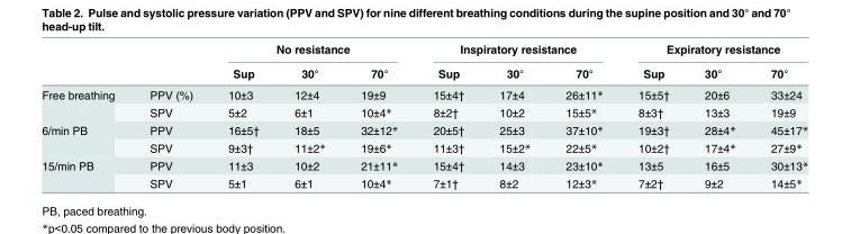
<table><thead><tr><td rowspan="2"></td><td rowspan="2"></td><td colspan="3">No resistance</td><td colspan="3">Inspiratory resistance</td><td colspan="3">Expiratory resistance</td></tr><tr><td>Sup</td><td>30°</td><td>70°</td><td>Sup</td><td>30°</td><td>70°</td><td>Sup</td><td>30°</td><td>70°</td></tr></thead><tbody><tr><td rowspan="2">Free breathing</td><td>PPV (%)</td><td>10±3</td><td>12±4</td><td>19±9</td><td>15±4†</td><td>17±4</td><td>26±11*</td><td>15±5†</td><td>20±6</td><td>33±24</td></tr><tr><td>SPV</td><td>5±2</td><td>6±1</td><td>10±4*</td><td>8±2†</td><td>10±2</td><td>15±5*</td><td>8±3†</td><td>13±3</td><td>19±9</td></tr><tr><td rowspan="2">6/min PB</td><td>PPV</td><td>16±5†</td><td>18±5</td><td>32±12*</td><td>20±5†</td><td>25±3</td><td>37±10*</td><td>19±3†</td><td>28±4*</td><td>45±17*</td></tr><tr><td>SPV</td><td>9±3†</td><td>11±2*</td><td>19±6*</td><td>11±3†</td><td>15±2*</td><td>22±5*</td><td>10±2†</td><td>17±4*</td><td>27±9*</td></tr><tr><td rowspan="2">15/min PB</td><td>PPV</td><td>11±3</td><td>10±2</td><td>21±11*</td><td>15±4†</td><td>14±3</td><td>23±10*</td><td>13±5</td><td>16±5</td><td>30±13*</td></tr><tr><td>SPV</td><td>5±1</td><td>6±1</td><td>10±4*</td><td>7±1†</td><td>8±2</td><td>12±3*</td><td>7±2†</td><td>9±2</td><td>14±5*</td></tr></tbody></table>